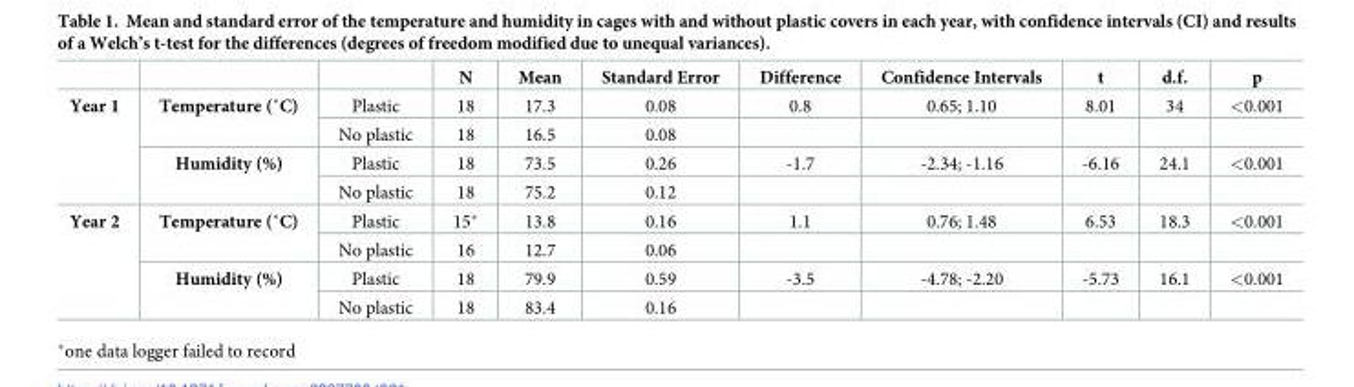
<table><thead><tr><td></td><td></td><td></td><td>N</td><td>Mean</td><td>Standard Error</td><td>Difference</td><td>Confidence Intervals</td><td>t</td><td>d.f.</td><td>p</td></tr></thead><tbody><tr><td rowspan="4">Year 1</td><td rowspan="2">Temperature (˚C)</td><td>Plastic</td><td>18</td><td>17.3</td><td>0.08</td><td>0.8</td><td>0.65; 1.10</td><td>8.01</td><td>34</td><td>&lt;0.001</td></tr><tr><td>No plastic</td><td>18</td><td>16.5</td><td>0.08</td><td></td><td></td><td></td><td></td><td></td></tr><tr><td rowspan="2">Humidity (%)</td><td>Plastic</td><td>18</td><td>73.5</td><td>0.26</td><td>-1.7</td><td>-2.34; -1.16</td><td>-6.16</td><td>24.1</td><td>&lt;0.001</td></tr><tr><td>No plastic</td><td>18</td><td>75.2</td><td>0.12</td><td></td><td></td><td></td><td></td><td></td></tr><tr><td rowspan="4">Year 2</td><td rowspan="2">Temperature (˚C)</td><td>Plastic</td><td>15*</td><td>13.8</td><td>0.16</td><td>1.1</td><td>0.76; 1.48</td><td>6.53</td><td>18.3</td><td>&lt;0.001</td></tr><tr><td>No plastic</td><td>16</td><td>12.7</td><td>0.06</td><td></td><td></td><td></td><td></td><td></td></tr><tr><td rowspan="2">Humidity (%)</td><td>Plastic</td><td>18</td><td>79.9</td><td>0.59</td><td>-3.5</td><td>-4.78; -2.20</td><td>-5.73</td><td>16.1</td><td>&lt;0.001</td></tr><tr><td>No plastic</td><td>18</td><td>83.4</td><td>0.16</td><td></td><td></td><td></td><td></td><td></td></tr></tbody></table>